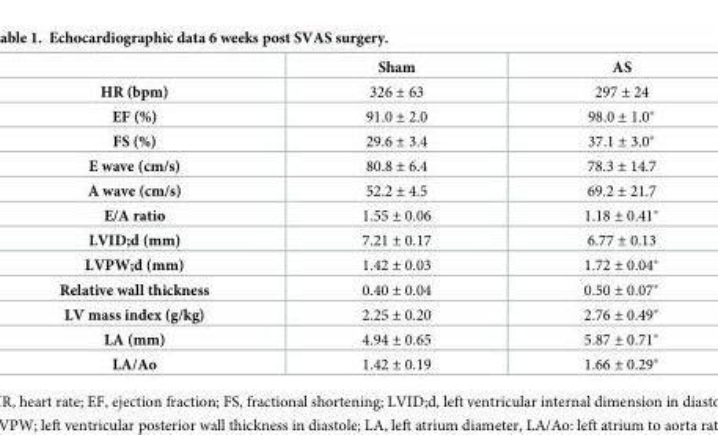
<table><thead><tr><td></td><td>Sham</td><td>AS</td></tr></thead><tbody><tr><td>HR (bpm)</td><td>326 ± 63</td><td>297 ± 24</td></tr><tr><td>EF (%)</td><td>91.0 ± 2.0</td><td>98.0 ± 1.0*</td></tr><tr><td>FS (%)</td><td>29.6 ± 3.4</td><td>37.1 ± 3.0*</td></tr><tr><td>E wave (cm/s)</td><td>80.8 ± 6.4</td><td>78.3 ± 14.7</td></tr><tr><td>A wave (cm/s)</td><td>52.2 ± 4.5</td><td>69.2 ± 21.7</td></tr><tr><td>E/A ratio</td><td>1.55 ± 0.06</td><td>1.18 ± 0.41*</td></tr><tr><td>LVID;d (mm)</td><td>7.21 ± 0.17</td><td>6.77 ± 0.13</td></tr><tr><td>LVPW;d (mm)</td><td>1.42 ± 0.03</td><td>1.72 ± 0.04*</td></tr><tr><td>Relative wall thickness</td><td>0.40 ± 0.04</td><td>0.50 ± 0.07*</td></tr><tr><td>LV mass index (g/kg)</td><td>2.25 ± 0.20</td><td>2.76 ± 0.49*</td></tr><tr><td>LA (mm)</td><td>4.94 ± 0.65</td><td>5.87 ± 0.71*</td></tr><tr><td>LA/Ao</td><td>1.42 ± 0.19</td><td>1.66 ± 0.29*</td></tr></tbody></table>